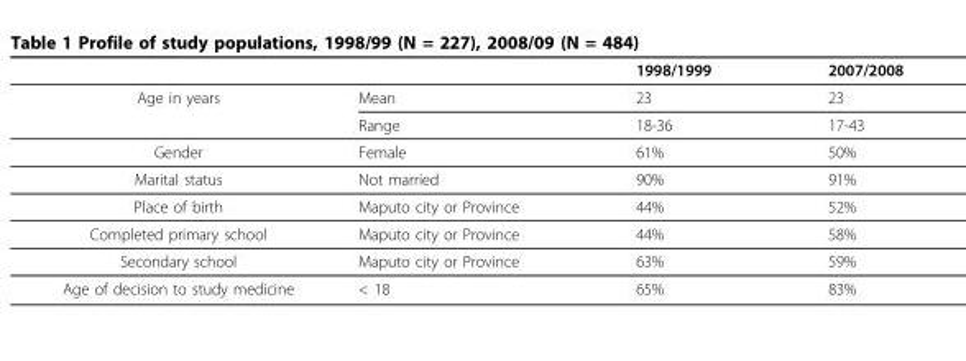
<table><thead><tr><td></td><td></td><td>1998/1999</td><td>2007/2008</td></tr></thead><tbody><tr><td rowspan="2">Age in years</td><td>Mean</td><td>23</td><td>23</td></tr><tr><td>Range</td><td>18-36</td><td>17-43</td></tr><tr><td>Gender</td><td>Female</td><td>61%</td><td>50%</td></tr><tr><td>Marital status</td><td>Not married</td><td>90%</td><td>91%</td></tr><tr><td>Place of birth</td><td>Maputo city or Province</td><td>44%</td><td>52%</td></tr><tr><td>Completed primary school</td><td>Maputo city or Province</td><td>44%</td><td>58%</td></tr><tr><td>Secondary school</td><td>Maputo city or Province</td><td>63%</td><td>59%</td></tr><tr><td>Age of decision to study medicine</td><td>&lt; 18</td><td>65%</td><td>83%</td></tr></tbody></table>